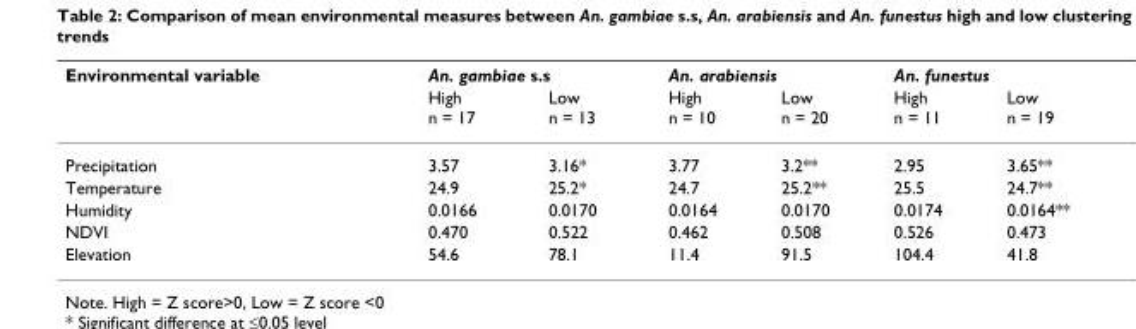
<table><thead><tr><td rowspan="2">Environmental variable</td><td colspan="2">An. gambiae s.s</td><td colspan="2">An. arabiensis</td><td colspan="2">An. funestus</td></tr><tr><td>High n = 17</td><td>Low n = 13</td><td>High n = 10</td><td>Low n = 20</td><td>High n = 11</td><td>Low n = 19</td></tr></thead><tbody><tr><td>Precipitation</td><td>3.57</td><td>3.16*</td><td>3.77</td><td>3.2**</td><td>2.95</td><td>3.65**</td></tr><tr><td>Temperature</td><td>24.9</td><td>25.2*</td><td>24.7</td><td>25.2**</td><td>25.5</td><td>24.7**</td></tr><tr><td>Humidity</td><td>0.0166</td><td>0.0170</td><td>0.0164</td><td>0.0170</td><td>0.0174</td><td>0.0164**</td></tr><tr><td>NDVI</td><td>0.470</td><td>0.522</td><td>0.462</td><td>0.508</td><td>0.526</td><td>0.473</td></tr><tr><td>Elevation</td><td>54.6</td><td>78.1</td><td>11.4</td><td>91.5</td><td>104.4</td><td>41.8</td></tr></tbody></table>